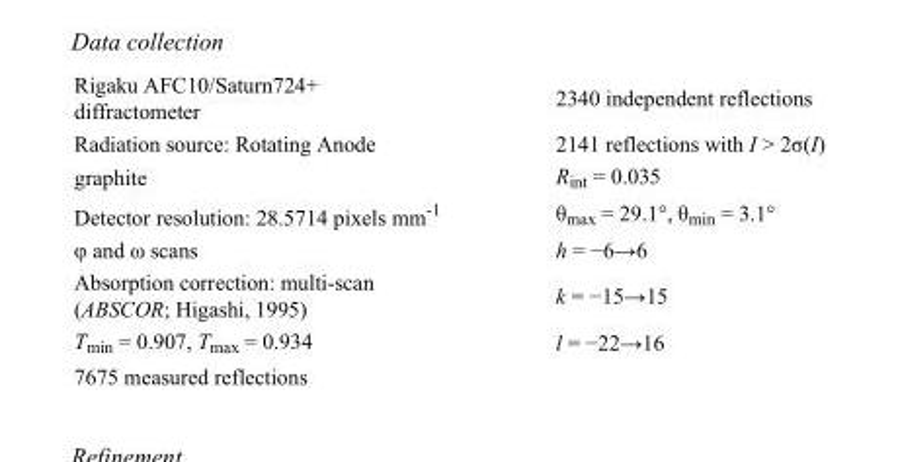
<table><tbody><tr><td>Rigaku AFC10/Saturn724+ diffractometer</td><td>2340 independent reflections</td></tr><tr><td>Radiation source: Rotating Anode</td><td>2141 reflections with I &gt; 2σ(I)</td></tr><tr><td>graphite</td><td>R<sub>int</sub> = 0.035</td></tr><tr><td>Detector resolution: 28.5714 pixels mm<sup>-1</sup></td><td>θ<sub>max</sub> = 29.1°, θ<sub>min</sub> = 3.1°</td></tr><tr><td>φ and ω scans</td><td>h = −6→6</td></tr><tr><td>Absorption correction: multi-scan (ABSCOR; Higashi, 1995)</td><td>k = −15→15</td></tr><tr><td>T<sub>min</sub> = 0.907, T<sub>max</sub> = 0.934</td><td>l = −22→16</td></tr><tr><td>7675 measured reflections</td><td></td></tr></tbody></table>